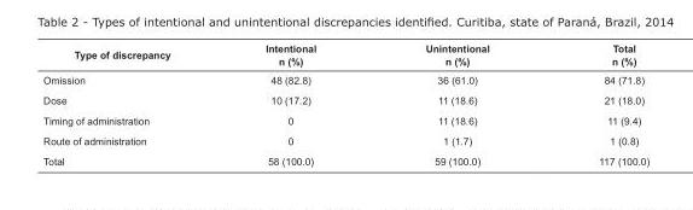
<table><tbody><tr><td>Type of discrepancy</td><td>Intentional n (%)</td><td>Unintentional n (%)</td><td>Total n (%)</td></tr><tr><td>Omission</td><td>48 (82.8)</td><td>36 (61.0)</td><td>84 (71.8)</td></tr><tr><td>Dose</td><td>10 (17.2)</td><td>11 (18.6)</td><td>21 (18.0)</td></tr><tr><td>Timing of administration</td><td>0</td><td>11 (18.6)</td><td>11 (9.4)</td></tr><tr><td>Route of administration</td><td>0</td><td>1 (1.7)</td><td>1 (0.8)</td></tr><tr><td>Total</td><td>58 (100.0)</td><td>59 (100.0)</td><td>117 (100.0)</td></tr></tbody></table>